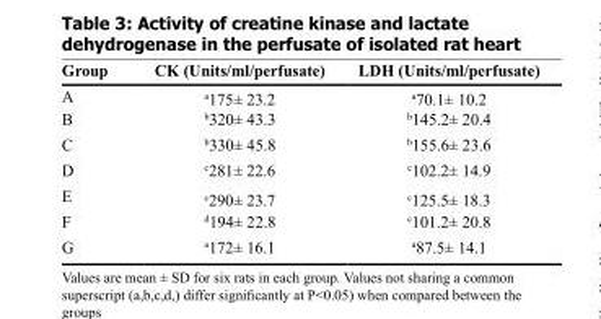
<table><thead><tr><td>Group</td><td>CK (Units/ml/perfusate)</td><td>LDH (Units/ml/perfusate)</td></tr></thead><tbody><tr><td>A</td><td><sup>a</sup>175± 23.2</td><td><sup>a</sup>70.1± 10.2</td></tr><tr><td>B</td><td><sup>b</sup>320± 43.3</td><td><sup>b</sup>145.2± 20.4</td></tr><tr><td>C</td><td><sup>b</sup>330± 45.8</td><td><sup>b</sup>155.6± 23.6</td></tr><tr><td>D</td><td><sup>c</sup>281± 22.6</td><td><sup>c</sup>102.2± 14.9</td></tr><tr><td>E</td><td><sup>c</sup>290± 23.7</td><td><sup>c</sup>125.5± 18.3</td></tr><tr><td>F</td><td><sup>d</sup>194± 22.8</td><td><sup>c</sup>101.2± 20.8</td></tr><tr><td>G</td><td><sup>a</sup>172± 16.1</td><td><sup>a</sup>87.5± 14.1</td></tr></tbody></table>